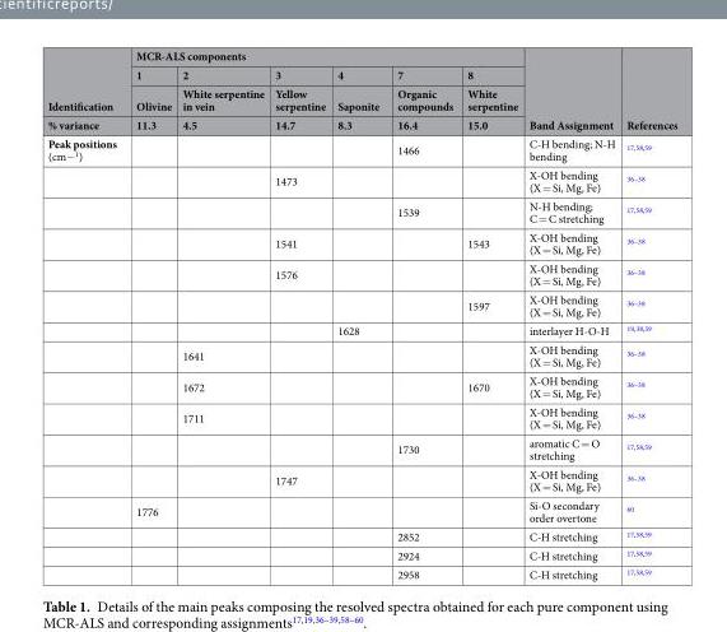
<table><thead><tr><td rowspan="4">Identification % variance</td><td colspan="6">MCR-ALS components</td><td rowspan="4">Band Assignment</td><td rowspan="4">References</td></tr><tr><td rowspan="3">1 Olivine 11.3</td><td rowspan="3">2 White serpentine in vein 4.5</td><td rowspan="3">3 Yellow serpentine 14.7</td><td rowspan="3">4 Saponite 8.3</td><td rowspan="3">7 Organic compounds 16.4</td><td rowspan="3">8 White serpentine 15.0</td></tr><tr></tr><tr></tr></thead><tbody><tr><td rowspan="16">Peak positions (cm−<sup>1</sup>)</td><td></td><td></td><td></td><td></td><td>1466</td><td></td><td>C-H bending; N-H bending</td><td><sup>17,58,59</sup></td></tr><tr><td></td><td></td><td>1473</td><td></td><td></td><td></td><td>X-OH bending (X = Si, Mg, Fe)</td><td><sup>36–38</sup></td></tr><tr><td></td><td></td><td></td><td></td><td>1539</td><td></td><td>N-H bending; C = C stretching</td><td><sup>17,58,59</sup></td></tr><tr><td></td><td></td><td>1541</td><td></td><td></td><td>1543</td><td>X-OH bending (X = Si, Mg, Fe)</td><td><sup>36–38</sup></td></tr><tr><td></td><td></td><td>1576</td><td></td><td></td><td></td><td>X-OH bending (X = Si, Mg, Fe)</td><td><sup>36–38</sup></td></tr><tr><td></td><td></td><td></td><td></td><td></td><td>1597</td><td>X-OH bending (X = Si, Mg, Fe)</td><td><sup>36–38</sup></td></tr><tr><td></td><td></td><td></td><td>1628</td><td></td><td></td><td>interlayer H-O-H</td><td><sup>19,38,39</sup></td></tr><tr><td></td><td>1641</td><td></td><td></td><td></td><td></td><td>X-OH bending (X = Si, Mg, Fe)</td><td><sup>36–38</sup></td></tr><tr><td></td><td>1672</td><td></td><td></td><td></td><td>1670</td><td>X-OH bending (X = Si, Mg, Fe)</td><td><sup>36–38</sup></td></tr><tr><td></td><td>1711</td><td></td><td></td><td></td><td></td><td>X-OH bending (X = Si, Mg, Fe)</td><td><sup>36–38</sup></td></tr><tr><td></td><td></td><td></td><td></td><td>1730</td><td></td><td>aromatic C = O stretching</td><td><sup>17,58,59</sup></td></tr><tr><td></td><td></td><td>1747</td><td></td><td></td><td></td><td>X-OH bending (X = Si, Mg, Fe)</td><td><sup>36–38</sup></td></tr><tr><td>1776</td><td></td><td></td><td></td><td></td><td></td><td>Si-O secondary order overtone</td><td><sup>60</sup></td></tr><tr><td></td><td></td><td></td><td></td><td>2852</td><td></td><td>C-H stretching</td><td><sup>17,58,59</sup></td></tr><tr><td></td><td></td><td></td><td></td><td>2924</td><td></td><td>C-H stretching</td><td><sup>17,58,59</sup></td></tr><tr><td></td><td></td><td></td><td></td><td>2958</td><td></td><td>C-H stretching</td><td><sup>17,58,59</sup></td></tr></tbody></table>